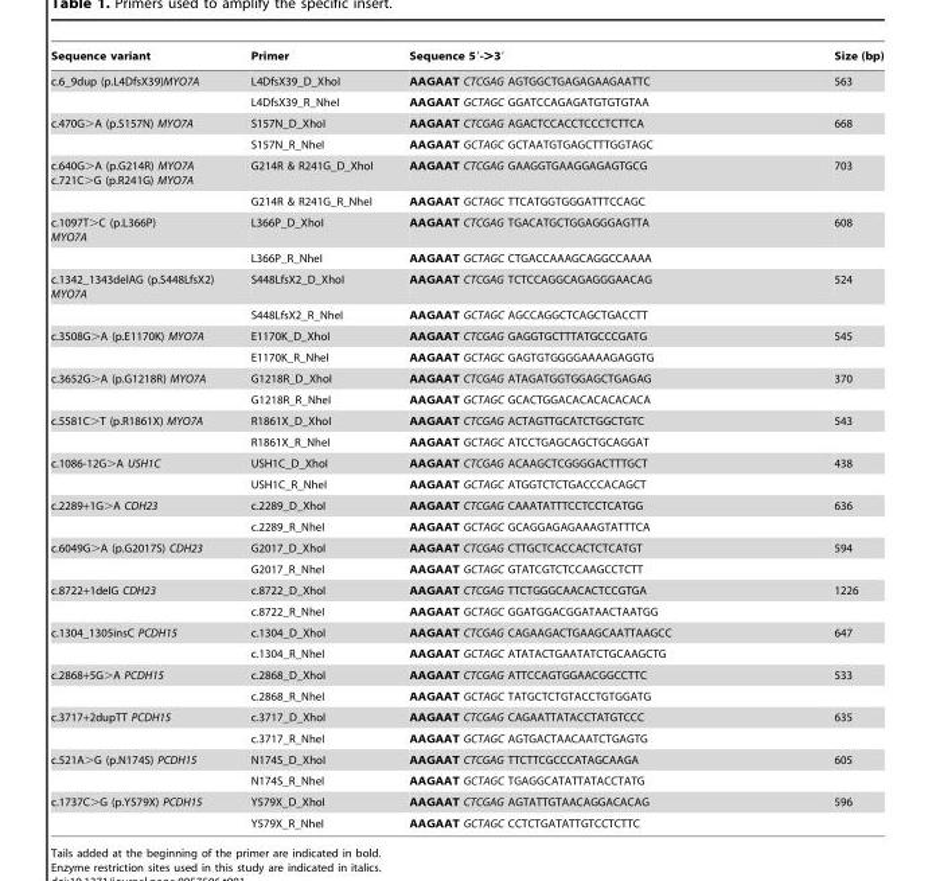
<table><thead><tr><td>Sequence variant</td><td>Primer</td><td>Sequence 5′-&gt;3′</td><td>Size (bp)</td></tr></thead><tbody><tr><td rowspan="2">c.6_9dup (p.L4DfsX39)MYO7A</td><td>L4DfsX39_D_XhoI</td><td>AAGAAT CTCGAG AGTGGCTGAGAGAAGAATTC</td><td>563</td></tr><tr><td>L4DfsX39_R_NheI</td><td>AAGAAT GCTAGC GGATCCAGAGATGTGTGTAA</td><td></td></tr><tr><td rowspan="2">c.470G&gt;A (p.S157N) MYO7A</td><td>S157N_D_XhoI</td><td>AAGAAT CTCGAG AGACTCCACCTCCCTCTTCA</td><td>668</td></tr><tr><td>S157N_R_NheI</td><td>AAGAAT GCTAGC GCTAATGTGAGCTTTGGTAGC</td><td></td></tr><tr><td rowspan="2">c.640G&gt;A (p.G214R) MYO7A c.721C&gt;G (p.R241G) MYO7A</td><td>G214R &amp; R241G_D_XhoI</td><td>AAGAAT CTCGAG GAAGGTGAAGGAGAGTGCG</td><td>703</td></tr><tr><td>G214R &amp; R241G_R_NheI</td><td>AAGAAT GCTAGC TTCATGGTGGGATTTCCAGC</td><td></td></tr><tr><td rowspan="2">c.1097T&gt;C (p.L366P) MYO7A</td><td>L366P_D_XhoI</td><td>AAGAAT CTCGAG TGACATGCTGGAGGGAGTTA</td><td>608</td></tr><tr><td>L366P_R_NheI</td><td>AAGAAT GCTAGC CTGACCAAAGCAGGCCAAAA</td><td></td></tr><tr><td rowspan="2">c.1342_1343delAG (p.S448LfsX2) MYO7A</td><td>S448LfsX2_D_XhoI</td><td>AAGAAT CTCGAG TCTCCAGGCAGAGGGAACAG</td><td>524</td></tr><tr><td>S448LfsX2_R_NheI</td><td>AAGAAT GCTAGC AGCCAGGCTCAGCTGACCTT</td><td></td></tr><tr><td rowspan="2">c.3508G&gt;A (p.E1170K) MYO7A</td><td>E1170K_D_XhoI</td><td>AAGAAT CTCGAG GAGGTGCTTTATGCCCGATG</td><td>545</td></tr><tr><td>E1170K_R_NheI</td><td>AAGAAT GCTAGC GAGTGTGGGGAAAAGAGGTG</td><td></td></tr><tr><td rowspan="2">c.3652G&gt;A (p.G1218R) MYO7A</td><td>G1218R_D_XhoI</td><td>AAGAAT CTCGAG ATAGATGGTGGAGCTGAGAG</td><td>370</td></tr><tr><td>G1218R_R_NheI</td><td>AAGAAT GCTAGC GCACTGGACACACACACACA</td><td></td></tr><tr><td rowspan="2">c.5581C&gt;T (p.R1861X) MYO7A</td><td>R1861X_D_XhoI</td><td>AAGAAT CTCGAG ACTAGTTGCATCTGGCTGTC</td><td>543</td></tr><tr><td>R1861X_R_NheI</td><td>AAGAAT GCTAGC ATCCTGAGCAGCTGCAGGAT</td><td></td></tr><tr><td rowspan="2">c.1086-12G&gt;A USH1C</td><td>USH1C_D_XhoI</td><td>AAGAAT CTCGAG ACAAGCTCGGGGACTTTGCT</td><td>438</td></tr><tr><td>USH1C_R_NheI</td><td>AAGAAT GCTAGC ATGGTCTCTGACCCACAGCT</td><td></td></tr><tr><td rowspan="2">c.2289+1G&gt;A CDH23</td><td>c.2289_D_XhoI</td><td>AAGAAT CTCGAG CAAATATTTCCTCCTCATGG</td><td>636</td></tr><tr><td>c.2289_R_NheI</td><td>AAGAAT GCTAGC GCAGGAGAGAAAGTATTTCA</td><td></td></tr><tr><td rowspan="2">c.6049G&gt;A (p.G2017S) CDH23</td><td>G2017_D_XhoI</td><td>AAGAAT CTCGAG CTTGCTCACCACTCTCATGT</td><td>594</td></tr><tr><td>G2017_R_NheI</td><td>AAGAAT GCTAGC GTATCGTCTCCAAGCCTCTT</td><td></td></tr><tr><td rowspan="2">c.8722+1delG CDH23</td><td>c.8722_D_XhoI</td><td>AAGAAT CTCGAG TTCTGGGCAACACTCCGTGA</td><td>1226</td></tr><tr><td>c.8722_R_NheI</td><td>AAGAAT GCTAGC GGATGGACGGATAACTAATGG</td><td></td></tr><tr><td rowspan="2">c.1304_1305insC PCDH15</td><td>c.1304_D_XhoI</td><td>AAGAAT CTCGAG CAGAAGACTGAAGCAATTAAGCC</td><td>647</td></tr><tr><td>c.1304_R_NheI</td><td>AAGAAT GCTAGC ATATACTGAATATCTGCAAGCTG</td><td></td></tr><tr><td rowspan="2">c.2868+5G&gt;A PCDH15</td><td>c.2868_D_XhoI</td><td>AAGAAT CTCGAG ATTCCAGTGGAACGGCCTTC</td><td>533</td></tr><tr><td>c.2868_R_NheI</td><td>AAGAAT GCTAGC TATGCTCTGTACCTGTGGATG</td><td></td></tr><tr><td rowspan="2">c.3717+2dupTT PCDH15</td><td>c.3717_D_XhoI</td><td>AAGAAT CTCGAG CAGAATTATACCTATGTCCC</td><td>635</td></tr><tr><td>c.3717_R_NheI</td><td>AAGAAT GCTAGC AGTGACTAACAATCTGAGTG</td><td></td></tr><tr><td rowspan="2">c.521A&gt;G (p.N174S) PCDH15</td><td>N174S_D_XhoI</td><td>AAGAAT CTCGAG TTCTTCGCCCATAGCAAGA</td><td>605</td></tr><tr><td>N174S_R_NheI</td><td>AAGAAT GCTAGC TGAGGCATATTATACCTATG</td><td></td></tr><tr><td rowspan="2">c.1737C&gt;G (p.Y579X) PCDH15</td><td>Y579X_D_XhoI</td><td>AAGAAT CTCGAG AGTATTGTAACAGGACACAG</td><td>596</td></tr><tr><td>Y579X_R_NheI</td><td>AAGAAT GCTAGC CCTCTGATATTGTCCTCTTC</td><td></td></tr></tbody></table>